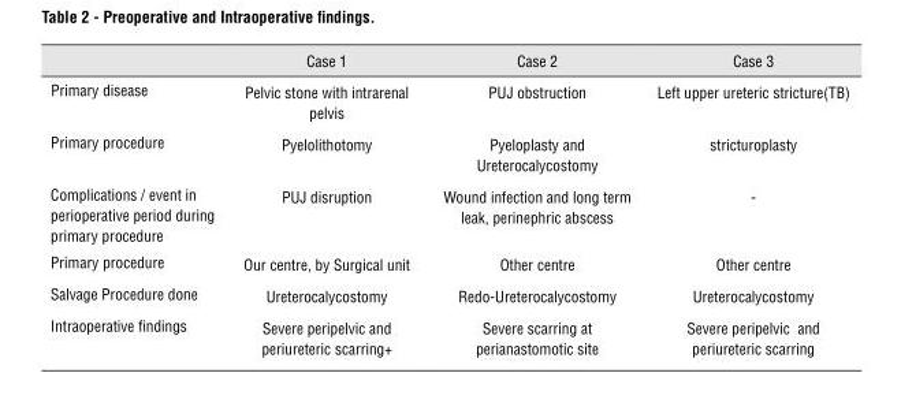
<table><thead><tr><td></td><td>Case 1</td><td>Case 2</td><td>Case 3</td></tr></thead><tbody><tr><td>Primary disease</td><td>Pelvic stone with intrarenal pelvis</td><td>PUJ obstruction</td><td>Left upper ureteric stricture(TB)</td></tr><tr><td>Primary procedure</td><td>Pyelolithotomy</td><td>Pyeloplasty and Ureterocalycostomy</td><td>stricturoplasty</td></tr><tr><td>Complications / event in perioperative period during primary procedure</td><td>PUJ disruption</td><td>Wound infection and long term leak, perinephric abscess</td><td>-</td></tr><tr><td>Primary procedure</td><td>Our centre, by Surgical unit</td><td>Other centre</td><td>Other centre</td></tr><tr><td>Salvage Procedure done</td><td>Ureterocalycostomy</td><td>Redo-Ureterocalycostomy</td><td>Ureterocalycostomy</td></tr><tr><td>Intraoperative findings</td><td>Severe peripelvic and periureteric scarring+</td><td>Severe scarring at perianastomotic site</td><td>Severe peripelvic and periureteric scarring</td></tr></tbody></table>